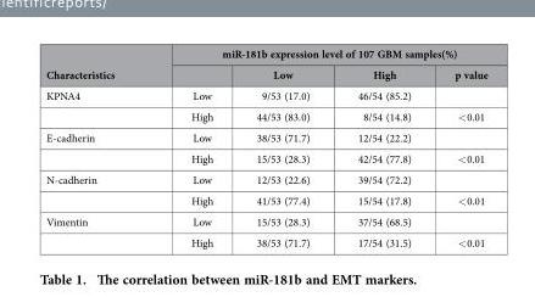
<table><thead><tr><td rowspan="2">Characteristics</td><td colspan="4">miR-181b expression level of 107 GBM samples(%)</td></tr><tr><td></td><td>Low</td><td>High</td><td>p value</td></tr></thead><tbody><tr><td rowspan="2">KPNA4</td><td>Low</td><td>9/53 (17.0)</td><td>46/54 (85.2)</td><td></td></tr><tr><td>High</td><td>44/53 (83.0)</td><td>8/54 (14.8)</td><td>&lt; 0.01</td></tr><tr><td rowspan="2">E-cadherin</td><td>Low</td><td>38/53 (71.7)</td><td>12/54 (22.2)</td><td></td></tr><tr><td>High</td><td>15/53 (28.3)</td><td>42/54 (77.8)</td><td>&lt; 0.01</td></tr><tr><td rowspan="2">N-cadherin</td><td>Low</td><td>12/53 (22.6)</td><td>39/54 (72.2)</td><td></td></tr><tr><td>High</td><td>41/53 (77.4)</td><td>15/54 (17.8)</td><td>&lt; 0.01</td></tr><tr><td rowspan="2">Vimentin</td><td>Low</td><td>15/53 (28.3)</td><td>37/54 (68.5)</td><td></td></tr><tr><td>High</td><td>38/53 (71.7)</td><td>17/54 (31.5)</td><td>&lt; 0.01</td></tr></tbody></table>